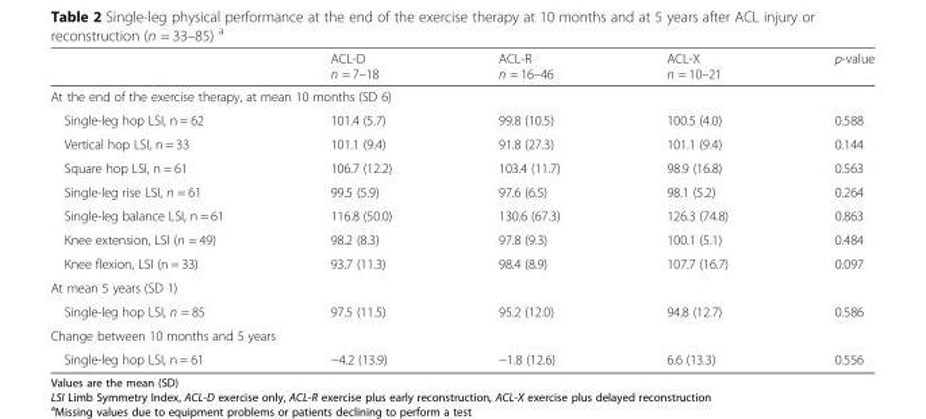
<table><thead><tr><td></td><td>ACL-D n = 7–18</td><td>ACL-R n = 16–46</td><td>ACL-X n = 10–21</td><td>p-value</td></tr></thead><tbody><tr><td colspan="5">At the end of the exercise therapy, at mean 10 months (SD 6)</td></tr><tr><td>Single-leg hop LSI, n = 62</td><td>101.4 (5.7)</td><td>99.8 (10.5)</td><td>100.5 (4.0)</td><td>0.588</td></tr><tr><td>Vertical hop LSI, n = 33</td><td>101.1 (9.4)</td><td>91.8 (27.3)</td><td>101.1 (9.4)</td><td>0.144</td></tr><tr><td>Square hop LSI, n = 61</td><td>106.7 (12.2)</td><td>103.4 (11.7)</td><td>98.9 (16.8)</td><td>0.563</td></tr><tr><td>Single-leg rise LSI, n = 61</td><td>99.5 (5.9)</td><td>97.6 (6.5)</td><td>98.1 (5.2)</td><td>0.264</td></tr><tr><td>Single-leg balance LSI, n = 61</td><td>116.8 (50.0)</td><td>130.6 (67.3)</td><td>126.3 (74.8)</td><td>0.863</td></tr><tr><td>Knee extension, LSI (n = 49)</td><td>98.2 (8.3)</td><td>97.8 (9.3)</td><td>100.1 (5.1)</td><td>0.484</td></tr><tr><td>Knee flexion, LSI (n = 33)</td><td>93.7 (11.3)</td><td>98.4 (8.9)</td><td>107.7 (16.7)</td><td>0.097</td></tr><tr><td colspan="5">At mean 5 years (SD 1)</td></tr><tr><td>Single-leg hop LSI, n = 85</td><td>97.5 (11.5)</td><td>95.2 (12.0)</td><td>94.8 (12.7)</td><td>0.586</td></tr><tr><td colspan="5">Change between 10 months and 5 years</td></tr><tr><td>Single-leg hop LSI, n = 61</td><td>−4.2 (13.9)</td><td>−1.8 (12.6)</td><td>6.6 (13.3)</td><td>0.556</td></tr></tbody></table>